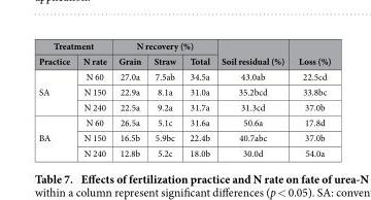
<table><thead><tr><td colspan="2">Treatment</td><td colspan="3">N recovery (%)</td><td rowspan="2">Soil residual (%)</td><td rowspan="2">Loss (%)</td></tr><tr><td>Practice</td><td>N rate</td><td>Grain</td><td>Straw</td><td>Total</td></tr></thead><tbody><tr><td rowspan="3">SA</td><td>N 60</td><td>27.0a</td><td>7.5ab</td><td>34.5a</td><td>43.0ab</td><td>22.5cd</td></tr><tr><td>N 150</td><td>22.9a</td><td>8.1a</td><td>31.0a</td><td>35.2bcd</td><td>33.8bc</td></tr><tr><td>N 240</td><td>22.5a</td><td>9.2a</td><td>31.7a</td><td>31.3cd</td><td>37.0b</td></tr><tr><td rowspan="3">BA</td><td>N 60</td><td>26.5a</td><td>5.1c</td><td>31.6a</td><td>50.6a</td><td>17.8d</td></tr><tr><td>N 150</td><td>16.5b</td><td>5.9bc</td><td>22.4b</td><td>40.7abc</td><td>37.0b</td></tr><tr><td>N 240</td><td>12.8b</td><td>5.2c</td><td>18.0b</td><td>30.0d</td><td>54.0a</td></tr></tbody></table>